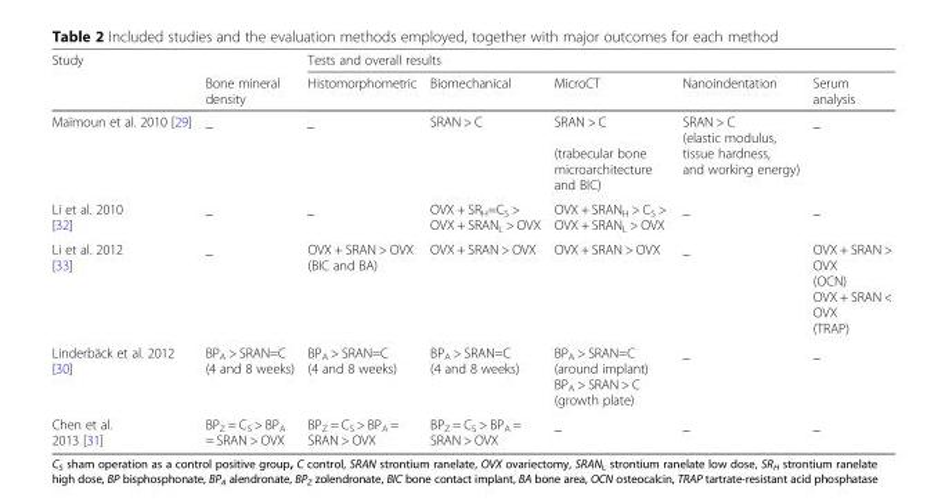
<table><thead><tr><td rowspan="2">Study</td><td rowspan="2">Bone mineral density</td><td colspan="5">Tests and overall results</td></tr><tr><td>Histomorphometric</td><td>Biomechanical</td><td>MicroCT</td><td>Nanoindentation</td><td>Serum analysis</td></tr></thead><tbody><tr><td>Maïmoun et al. 2010 [29]</td><td>_</td><td>_</td><td>SRAN &gt; C</td><td>SRAN &gt; C (trabecular bone microarchitecture and BIC)</td><td>SRAN &gt; C (elastic modulus, tissue hardness, and working energy)</td><td>_</td></tr><tr><td>Li et al. 2010 [32]</td><td>_</td><td>_</td><td>OVX + SR<sub>H</sub>=C<sub>S</sub> &gt; OVX + SRAN<sub>L</sub> &gt; OVX</td><td>OVX + SRAN<sub>H</sub> &gt; C<sub>S</sub> &gt; OVX + SRAN<sub>L</sub> &gt; OVX</td><td>_</td><td>_</td></tr><tr><td>Li et al. 2012 [33]</td><td>_</td><td>OVX + SRAN &gt; OVX (BIC and BA)</td><td>OVX + SRAN &gt; OVX</td><td>OVX + SRAN &gt; OVX</td><td>_</td><td>OVX + SRAN &gt; OVX (OCN) OVX + SRAN &lt; OVX (TRAP)</td></tr><tr><td>Linderbäck et al. 2012 [30]</td><td>BP<sub>A</sub> &gt; SRAN=C (4 and 8 weeks)</td><td>BP<sub>A</sub> &gt; SRAN=C (4 and 8 weeks)</td><td>BP<sub>A</sub> &gt; SRAN=C (4 and 8 weeks)</td><td>BP<sub>A</sub> &gt; SRAN=C (around implant) BP<sub>A</sub> &gt; SRAN &gt; C (growth plate)</td><td>_</td><td>_</td></tr><tr><td>Chen et al. 2013 [31]</td><td>BP<sub>Z</sub> = C<sub>S</sub> &gt; BP<sub>A</sub> = SRAN &gt; OVX</td><td>BP<sub>Z</sub> = C<sub>S</sub> &gt; BP<sub>A</sub> = SRAN &gt; OVX</td><td>BP<sub>Z</sub> = C<sub>S</sub> &gt; BP<sub>A</sub> = SRAN &gt; OVX</td><td>_</td><td>_</td><td>_</td></tr></tbody></table>